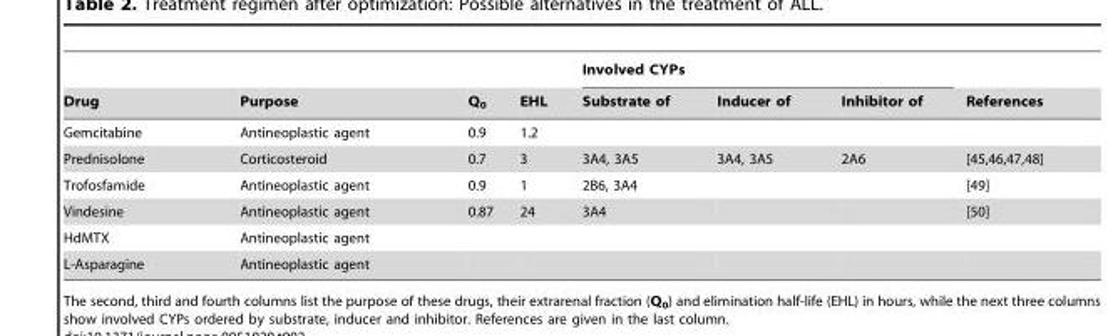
<table><thead><tr><td rowspan="2">Drug</td><td rowspan="2">Purpose</td><td rowspan="2">Q<sub>0</sub></td><td rowspan="2">EHL</td><td colspan="3">Involved CYPs</td><td rowspan="2">References</td></tr><tr><td>Substrate of</td><td>Inducer of</td><td>Inhibitor of</td></tr></thead><tbody><tr><td>Gemcitabine</td><td>Antineoplastic agent</td><td>0.9</td><td>1.2</td><td></td><td></td><td></td><td></td></tr><tr><td>Prednisolone</td><td>Corticosteroid</td><td>0.7</td><td>3</td><td>3A4, 3A5</td><td>3A4, 3A5</td><td>2A6</td><td>[45,46,47,48]</td></tr><tr><td>Trofosfamide</td><td>Antineoplastic agent</td><td>0.9</td><td>1</td><td>2B6, 3A4</td><td></td><td></td><td>[49]</td></tr><tr><td>Vindesine</td><td>Antineoplastic agent</td><td>0.87</td><td>24</td><td>3A4</td><td></td><td></td><td>[50]</td></tr><tr><td>HdMTX</td><td>Antineoplastic agent</td><td></td><td></td><td></td><td></td><td></td><td></td></tr><tr><td>L-Asparagine</td><td>Antineoplastic agent</td><td></td><td></td><td></td><td></td><td></td><td></td></tr></tbody></table>